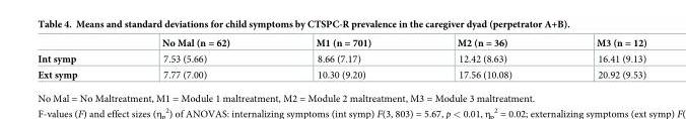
<table><thead><tr><td></td><td>No Mal (n = 62)</td><td>M1 (n = 701)</td><td>M2 (n = 36)</td><td>M3 (n = 12)</td></tr></thead><tbody><tr><td>Int symp</td><td>7.53 (5.66)</td><td>8.66 (7.17)</td><td>12.42 (8.63)</td><td>16.41 (9.13)</td></tr><tr><td>Ext symp</td><td>7.77 (7.00)</td><td>10.30 (9.20)</td><td>17.56 (10.08)</td><td>20.92 (9.53)</td></tr></tbody></table>